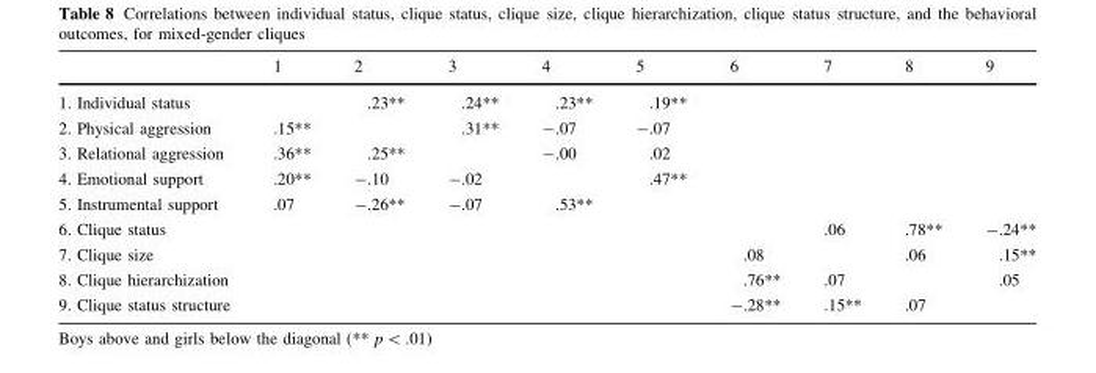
<table><thead><tr><td></td><td>1</td><td>2</td><td>3</td><td>4</td><td>5</td><td>6</td><td>7</td><td>8</td><td>9</td></tr></thead><tbody><tr><td>1. Individual status</td><td></td><td>.23**</td><td>.24**</td><td>.23**</td><td>.19**</td><td></td><td></td><td></td><td></td></tr><tr><td>2. Physical aggression</td><td>.15**</td><td></td><td>.31**</td><td>-.07</td><td>-.07</td><td></td><td></td><td></td><td></td></tr><tr><td>3. Relational aggression</td><td>.36**</td><td>.25**</td><td></td><td>-.00</td><td>.02</td><td></td><td></td><td></td><td></td></tr><tr><td>4. Emotional support</td><td>.20**</td><td>-.10</td><td>-.02</td><td></td><td>.47**</td><td></td><td></td><td></td><td></td></tr><tr><td>5. Instrumental support</td><td>.07</td><td>-.26**</td><td>-.07</td><td>.53**</td><td></td><td></td><td></td><td></td><td></td></tr><tr><td>6. Clique status</td><td></td><td></td><td></td><td></td><td></td><td></td><td>.06</td><td>.78**</td><td>-.24**</td></tr><tr><td>7. Clique size</td><td></td><td></td><td></td><td></td><td></td><td>.08</td><td></td><td>.06</td><td>.15**</td></tr><tr><td>8. Clique hierarchization</td><td></td><td></td><td></td><td></td><td></td><td>.76**</td><td>.07</td><td></td><td>.05</td></tr><tr><td>9. Clique status structure</td><td></td><td></td><td></td><td></td><td></td><td>-.28**</td><td>.15**</td><td>.07</td><td></td></tr></tbody></table>